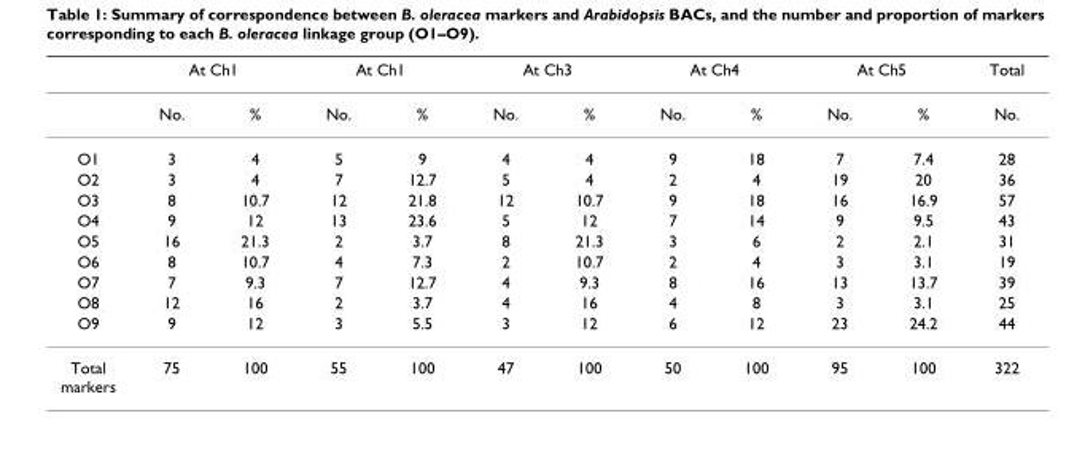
<table><thead><tr><td rowspan="2"></td><td colspan="2">At Ch1</td><td colspan="2">At Ch1</td><td colspan="2">At Ch3</td><td colspan="2">At Ch4</td><td colspan="2">At Ch5</td><td rowspan="2">Total No.</td></tr><tr><td>No.</td><td>%</td><td>No.</td><td>%</td><td>No.</td><td>%</td><td>No.</td><td>%</td><td>No.</td><td>%</td></tr></thead><tbody><tr><td>O1</td><td>3</td><td>4</td><td>5</td><td>9</td><td>4</td><td>4</td><td>9</td><td>18</td><td>7</td><td>7.4</td><td>28</td></tr><tr><td>O2</td><td>3</td><td>4</td><td>7</td><td>12.7</td><td>5</td><td>4</td><td>2</td><td>4</td><td>19</td><td>20</td><td>36</td></tr><tr><td>O3</td><td>8</td><td>10.7</td><td>12</td><td>21.8</td><td>12</td><td>10.7</td><td>9</td><td>18</td><td>16</td><td>16.9</td><td>57</td></tr><tr><td>O4</td><td>9</td><td>12</td><td>13</td><td>23.6</td><td>5</td><td>12</td><td>7</td><td>14</td><td>9</td><td>9.5</td><td>43</td></tr><tr><td>O5</td><td>16</td><td>21.3</td><td>2</td><td>3.7</td><td>8</td><td>21.3</td><td>3</td><td>6</td><td>2</td><td>2.1</td><td>31</td></tr><tr><td>O6</td><td>8</td><td>10.7</td><td>4</td><td>7.3</td><td>2</td><td>10.7</td><td>2</td><td>4</td><td>3</td><td>3.1</td><td>19</td></tr><tr><td>O7</td><td>7</td><td>9.3</td><td>7</td><td>12.7</td><td>4</td><td>9.3</td><td>8</td><td>16</td><td>13</td><td>13.7</td><td>39</td></tr><tr><td>O8</td><td>12</td><td>16</td><td>2</td><td>3.7</td><td>4</td><td>16</td><td>4</td><td>8</td><td>3</td><td>3.1</td><td>25</td></tr><tr><td>O9</td><td>9</td><td>12</td><td>3</td><td>5.5</td><td>3</td><td>12</td><td>6</td><td>12</td><td>23</td><td>24.2</td><td>44</td></tr><tr><td>Total markers</td><td>75</td><td>100</td><td>55</td><td>100</td><td>47</td><td>100</td><td>50</td><td>100</td><td>95</td><td>100</td><td>322</td></tr></tbody></table>